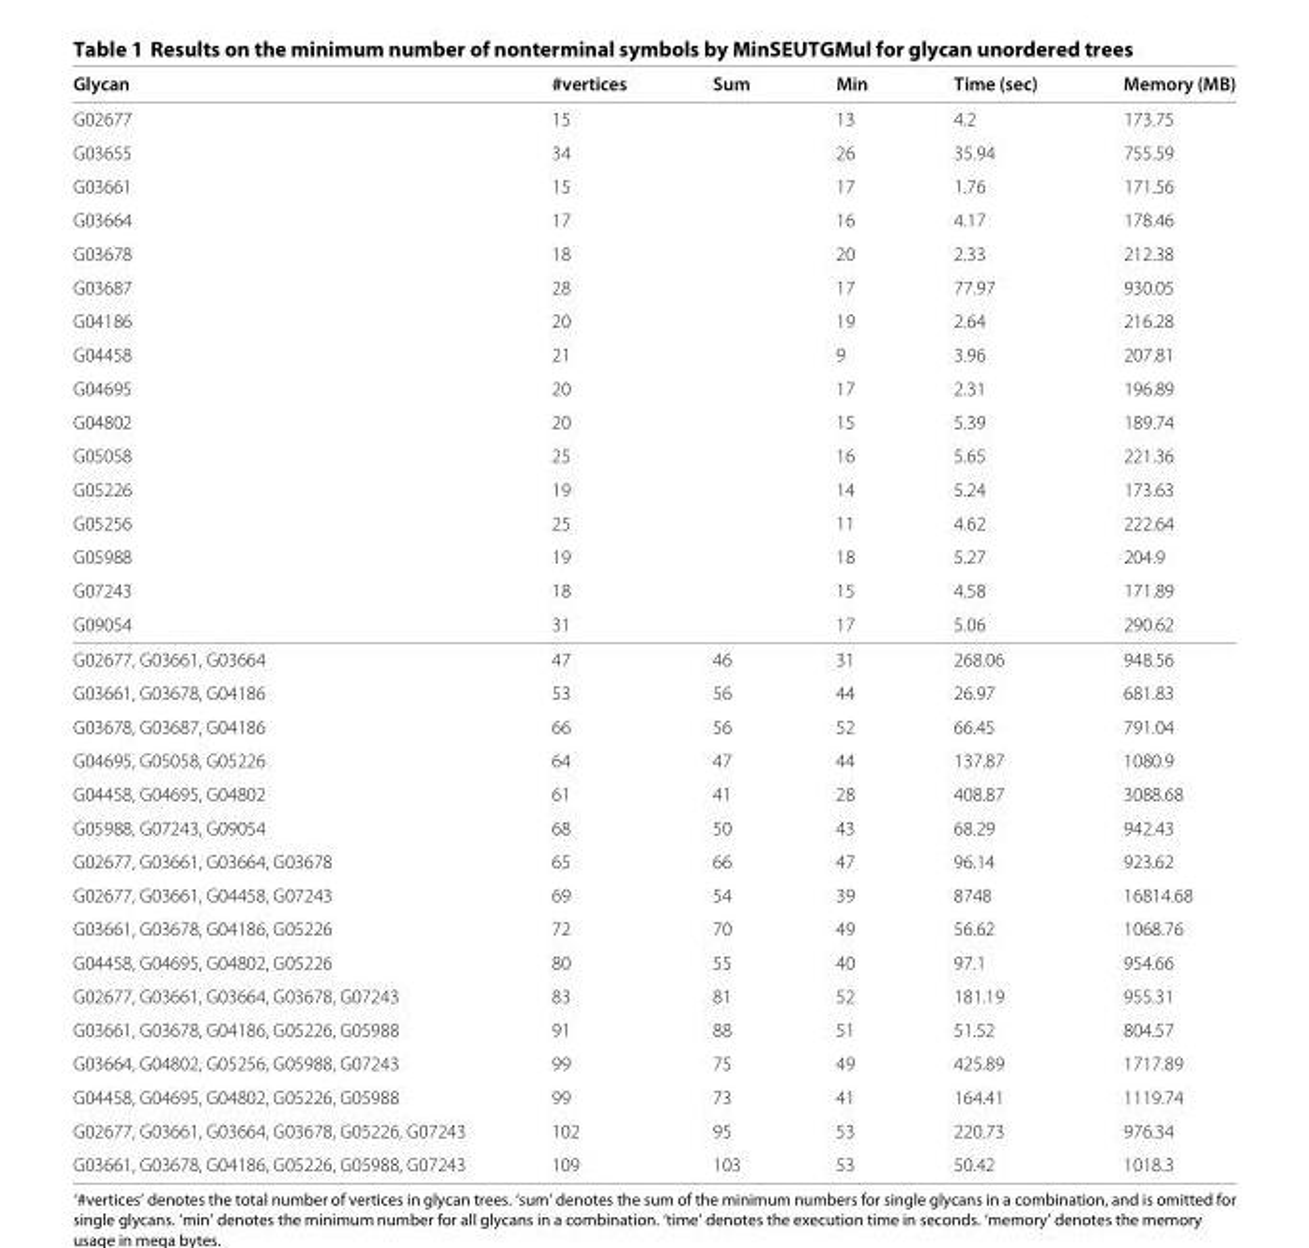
<table><thead><tr><td>Glycan</td><td>#vertices</td><td>Sum</td><td>Min</td><td>Time (sec)</td><td>Memory (MB)</td></tr></thead><tbody><tr><td>G02677</td><td>15</td><td></td><td>13</td><td>4.2</td><td>173.75</td></tr><tr><td>G03655</td><td>34</td><td></td><td>26</td><td>35.94</td><td>755.59</td></tr><tr><td>G03661</td><td>15</td><td></td><td>17</td><td>1.76</td><td>171.56</td></tr><tr><td>G03664</td><td>17</td><td></td><td>16</td><td>4.17</td><td>178.46</td></tr><tr><td>G03678</td><td>18</td><td></td><td>20</td><td>2.33</td><td>212.38</td></tr><tr><td>G03687</td><td>28</td><td></td><td>17</td><td>77.97</td><td>930.05</td></tr><tr><td>G04186</td><td>20</td><td></td><td>19</td><td>2.64</td><td>216.28</td></tr><tr><td>G04458</td><td>21</td><td></td><td>9</td><td>3.96</td><td>207.81</td></tr><tr><td>G04695</td><td>20</td><td></td><td>17</td><td>2.31</td><td>196.89</td></tr><tr><td>G04802</td><td>20</td><td></td><td>15</td><td>5.39</td><td>189.74</td></tr><tr><td>G05058</td><td>25</td><td></td><td>16</td><td>5.65</td><td>221.36</td></tr><tr><td>G05226</td><td>19</td><td></td><td>14</td><td>5.24</td><td>173.63</td></tr><tr><td>G05256</td><td>25</td><td></td><td>11</td><td>4.62</td><td>222.64</td></tr><tr><td>G05988</td><td>19</td><td></td><td>18</td><td>5.27</td><td>204.9</td></tr><tr><td>G07243</td><td>18</td><td></td><td>15</td><td>4.58</td><td>171.89</td></tr><tr><td>G09054</td><td>31</td><td></td><td>17</td><td>5.06</td><td>290.62</td></tr><tr><td>G02677, G03661, G03664</td><td>47</td><td>46</td><td>31</td><td>268.06</td><td>948.56</td></tr><tr><td>G03661, G03678, G04186</td><td>53</td><td>56</td><td>44</td><td>26.97</td><td>681.83</td></tr><tr><td>G03678, G03687, G04186</td><td>66</td><td>56</td><td>52</td><td>66.45</td><td>791.04</td></tr><tr><td>G04695, G05058, G05226</td><td>64</td><td>47</td><td>44</td><td>137.87</td><td>1080.9</td></tr><tr><td>G04458, G04695, G04802</td><td>61</td><td>41</td><td>28</td><td>408.87</td><td>3088.68</td></tr><tr><td>G05988, G07243, G09054</td><td>68</td><td>50</td><td>43</td><td>68.29</td><td>942.43</td></tr><tr><td>G02677, G03661, G03664, G03678</td><td>65</td><td>66</td><td>47</td><td>96.14</td><td>923.62</td></tr><tr><td>G02677, G03661, G04458, G07243</td><td>69</td><td>54</td><td>39</td><td>8748</td><td>16814.68</td></tr><tr><td>G03661, G03678, G04186, G05226</td><td>72</td><td>70</td><td>49</td><td>56.62</td><td>1068.76</td></tr><tr><td>G04458, G04695, G04802, G05226</td><td>80</td><td>55</td><td>40</td><td>97.1</td><td>954.66</td></tr><tr><td>G02677, G03661, G03664, G03678, G07243</td><td>83</td><td>81</td><td>52</td><td>181.19</td><td>955.31</td></tr><tr><td>G03661, G03678, G04186, G05226, G05988</td><td>91</td><td>88</td><td>51</td><td>51.52</td><td>804.57</td></tr><tr><td>G03664, G04802, G05256, G05988, G07243</td><td>99</td><td>75</td><td>49</td><td>425.89</td><td>1717.89</td></tr><tr><td>G04458, G04695, G04802, G05226, G05988</td><td>99</td><td>73</td><td>41</td><td>164.41</td><td>1119.74</td></tr><tr><td>G02677, G03661, G03664, G03678, G05226, G07243</td><td>102</td><td>95</td><td>53</td><td>220.73</td><td>976.34</td></tr><tr><td>G03661, G03678, G04186, G05226, G05988, G07243</td><td>109</td><td>103</td><td>53</td><td>50.42</td><td>1018.3</td></tr></tbody></table>